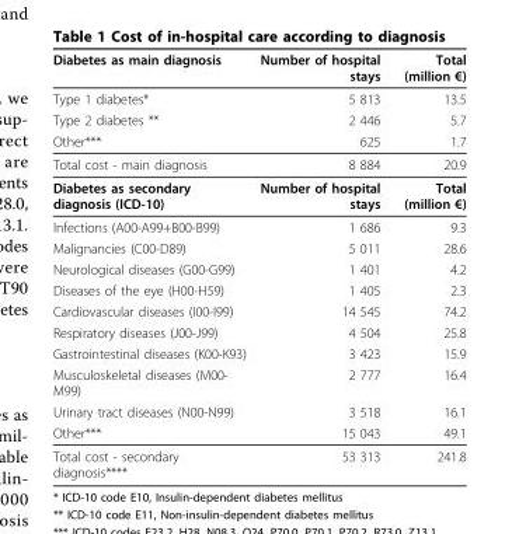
<table><thead><tr><td>Diabetes as main diagnosis</td><td>Number of hospital stays</td><td>Total (million €)</td></tr></thead><tbody><tr><td>Type 1 diabetes*</td><td>5 813</td><td>13.5</td></tr><tr><td>Type 2 diabetes **</td><td>2 446</td><td>5.7</td></tr><tr><td>Other***</td><td>625</td><td>1.7</td></tr><tr><td>Total cost - main diagnosis</td><td>8 884</td><td>20.9</td></tr><tr><td>Diabetes as secondary diagnosis (ICD-10)</td><td>Number of hospital stays</td><td>Total (million €)</td></tr><tr><td>Infections (A00-A99+B00-B99)</td><td>1 686</td><td>9.3</td></tr><tr><td>Malignancies (C00-D89)</td><td>5 011</td><td>28.6</td></tr><tr><td>Neurological diseases (G00-G99)</td><td>1 401</td><td>4.2</td></tr><tr><td>Diseases of the eye (H00-H59)</td><td>1 405</td><td>2.3</td></tr><tr><td>Cardiovascular diseases (I00-I99)</td><td>14 545</td><td>74.2</td></tr><tr><td>Respiratory diseases (J00-J99)</td><td>4 504</td><td>25.8</td></tr><tr><td>Gastrointestinal diseases (K00-K93)</td><td>3 423</td><td>15.9</td></tr><tr><td>Musculoskeletal diseases (M00- M99)</td><td>2 777</td><td>16.4</td></tr><tr><td>Urinary tract diseases (N00-N99)</td><td>3 518</td><td>16.1</td></tr><tr><td>Other***</td><td>15 043</td><td>49.1</td></tr><tr><td>Total cost - secondary diagnosis****</td><td>53 313</td><td>241.8</td></tr></tbody></table>